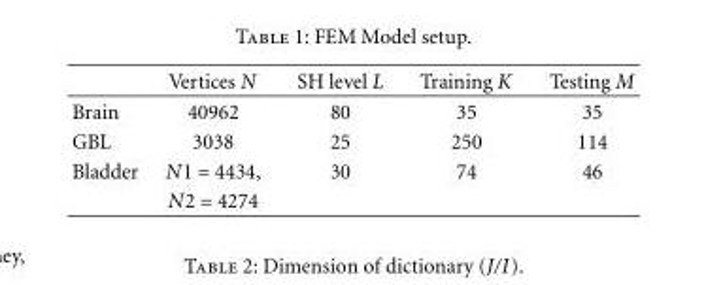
<table><thead><tr><td></td><td>Vertices N</td><td>SH level L</td><td>Training K</td><td>Testing M</td></tr></thead><tbody><tr><td>Brain</td><td>40962</td><td>80</td><td>35</td><td>35</td></tr><tr><td>GBL</td><td>3038</td><td>25</td><td>250</td><td>114</td></tr><tr><td rowspan="2">Bladder</td><td>N1 = 4434,</td><td>30</td><td>74</td><td>46</td></tr><tr><td>N2 = 4274</td><td></td><td></td><td></td></tr></tbody></table>